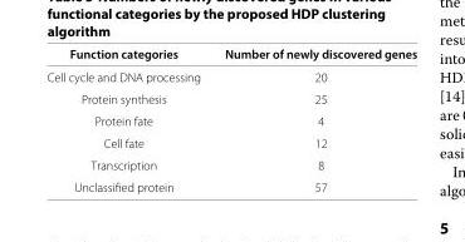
<table><thead><tr><td>Function categories</td><td>Number of newly discovered genes</td></tr></thead><tbody><tr><td>Cell cycle and DNA processing</td><td>20</td></tr><tr><td>Protein synthesis</td><td>25</td></tr><tr><td>Protein fate</td><td>4</td></tr><tr><td>Cell fate</td><td>12</td></tr><tr><td>Transcription</td><td>8</td></tr><tr><td>Unclassified protein</td><td>57</td></tr></tbody></table>